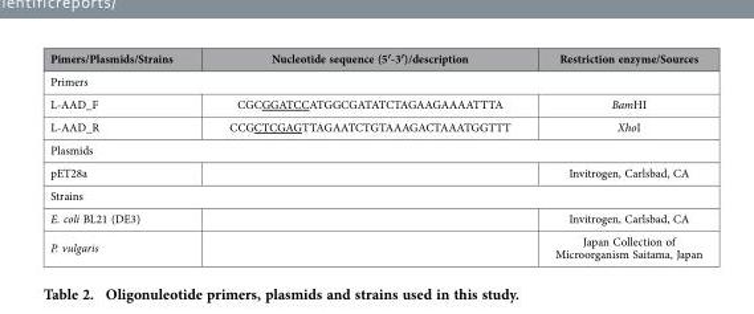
<table><thead><tr><td>Pimers/Plasmids/Strains</td><td>Nucleotide sequence (5′-3′)/description</td><td>Restriction enzyme/Sources</td></tr></thead><tbody><tr><td colspan="3">Primers</td></tr><tr><td>L-AAD_F</td><td>CGCGGATCCATGGCGATATCTAGAAGAAAATTTA</td><td>BamHI</td></tr><tr><td>L-AAD_R</td><td>CCGCTCGAGTTAGAATCTGTAAAGACTAAATGGTTT</td><td>XhoI</td></tr><tr><td colspan="3">Plasmids</td></tr><tr><td>pET28a</td><td></td><td>Invitrogen, Carlsbad, CA</td></tr><tr><td colspan="3">Strains</td></tr><tr><td>E. coli BL21 (DE3)</td><td></td><td>Invitrogen, Carlsbad, CA</td></tr><tr><td>P. vulgaris</td><td></td><td>Japan Collection of Microorganism Saitama, Japan</td></tr></tbody></table>